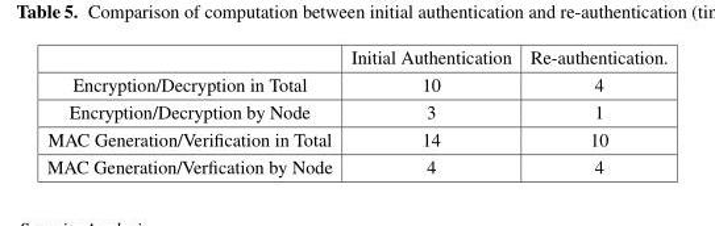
<table><thead><tr><td></td><td>Initial Authentication</td><td>Re-authentication.</td></tr></thead><tbody><tr><td>Encryption/Decryption in Total</td><td>10</td><td>4</td></tr><tr><td>Encryption/Decryption by Node</td><td>3</td><td>1</td></tr><tr><td>MAC Generation/Verification in Total</td><td>14</td><td>10</td></tr><tr><td>MAC Generation/Verfication by Node</td><td>4</td><td>4</td></tr></tbody></table>